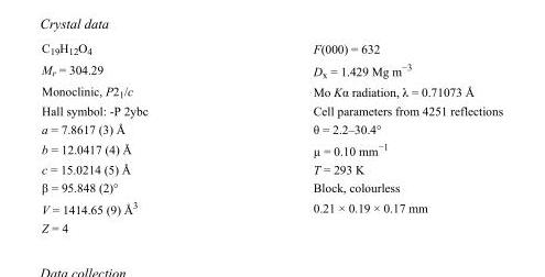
<table><tbody><tr><td>C<sub>19</sub>H<sub>12</sub>O<sub>4</sub></td><td>F(000) = 632</td></tr><tr><td>M<sub>r</sub> = 304.29</td><td>D<sub>x</sub> = 1.429 Mg m<sup>−3</sup></td></tr><tr><td>Monoclinic, P2<sub>1</sub>/c</td><td>Mo Kα radiation, λ = 0.71073 Å</td></tr><tr><td>Hall symbol: -P 2ybc</td><td>Cell parameters from 4251 reflections</td></tr><tr><td>a = 7.8617 (3) Å</td><td>θ = 2.2–30.4°</td></tr><tr><td>b = 12.0417 (4) Å</td><td>µ = 0.10 mm<sup>−1</sup></td></tr><tr><td>c = 15.0214 (5) Å</td><td>T = 293 K</td></tr><tr><td>β = 95.848 (2)°</td><td>Block, colourless</td></tr><tr><td>V = 1414.65 (9) Å<sup>3</sup></td><td>0.21 × 0.19 × 0.17 mm</td></tr><tr><td>Z = 4</td><td></td></tr></tbody></table>